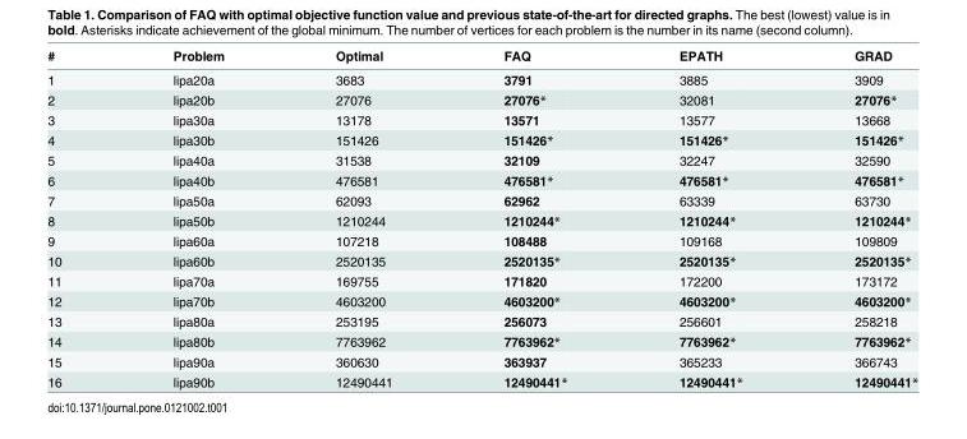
<table><thead><tr><td>#</td><td>Problem</td><td>Optimal</td><td>FAQ</td><td>EPATH</td><td>GRAD</td></tr></thead><tbody><tr><td>1</td><td>lipa20a</td><td>3683</td><td>3791</td><td>3885</td><td>3909</td></tr><tr><td>2</td><td>lipa20b</td><td>27076</td><td>27076*</td><td>32081</td><td>27076*</td></tr><tr><td>3</td><td>lipa30a</td><td>13178</td><td>13571</td><td>13577</td><td>13668</td></tr><tr><td>4</td><td>lipa30b</td><td>151426</td><td>151426*</td><td>151426*</td><td>151426*</td></tr><tr><td>5</td><td>lipa40a</td><td>31538</td><td>32109</td><td>32247</td><td>32590</td></tr><tr><td>6</td><td>lipa40b</td><td>476581</td><td>476581*</td><td>476581*</td><td>476581*</td></tr><tr><td>7</td><td>lipa50a</td><td>62093</td><td>62962</td><td>63339</td><td>63730</td></tr><tr><td>8</td><td>lipa50b</td><td>1210244</td><td>1210244*</td><td>1210244*</td><td>1210244*</td></tr><tr><td>9</td><td>lipa60a</td><td>107218</td><td>108488</td><td>109168</td><td>109809</td></tr><tr><td>10</td><td>lipa60b</td><td>2520135</td><td>2520135*</td><td>2520135*</td><td>2520135*</td></tr><tr><td>11</td><td>lipa70a</td><td>169755</td><td>171820</td><td>172200</td><td>173172</td></tr><tr><td>12</td><td>lipa70b</td><td>4603200</td><td>4603200*</td><td>4603200*</td><td>4603200*</td></tr><tr><td>13</td><td>lipa80a</td><td>253195</td><td>256073</td><td>256601</td><td>258218</td></tr><tr><td>14</td><td>lipa80b</td><td>7763962</td><td>7763962*</td><td>7763962*</td><td>7763962*</td></tr><tr><td>15</td><td>lipa90a</td><td>360630</td><td>363937</td><td>365233</td><td>366743</td></tr><tr><td>16</td><td>lipa90b</td><td>12490441</td><td>12490441*</td><td>12490441*</td><td>12490441*</td></tr></tbody></table>